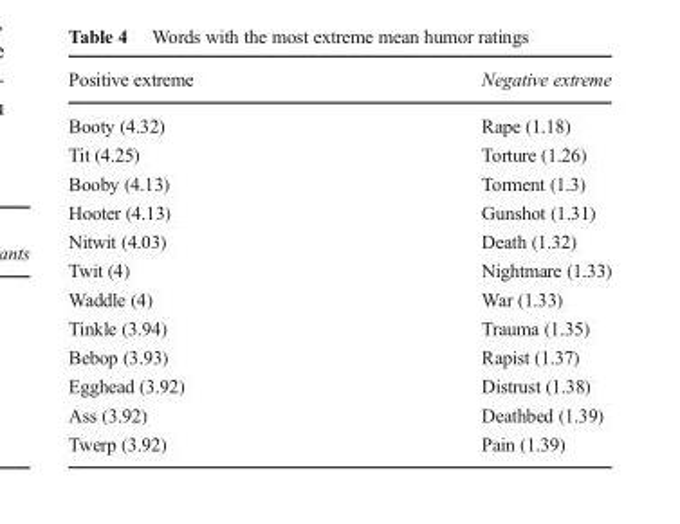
<table><thead><tr><td>Positive extreme</td><td>Negative extreme</td></tr></thead><tbody><tr><td>Booty (4.32)</td><td>Rape (1.18)</td></tr><tr><td>Tit (4.25)</td><td>Torture (1.26)</td></tr><tr><td>Booby (4.13)</td><td>Torment (1.3)</td></tr><tr><td>Hooter (4.13)</td><td>Gunshot (1.31)</td></tr><tr><td>Nitwit (4.03)</td><td>Death (1.32)</td></tr><tr><td>Twit (4)</td><td>Nightmare (1.33)</td></tr><tr><td>Waddle (4)</td><td>War (1.33)</td></tr><tr><td>Tinkle (3.94)</td><td>Trauma (1.35)</td></tr><tr><td>Bebop (3.93)</td><td>Rapist (1.37)</td></tr><tr><td>Egghead (3.92)</td><td>Distrust (1.38)</td></tr><tr><td>Ass (3.92)</td><td>Deathbed (1.39)</td></tr><tr><td>Twerp (3.92)</td><td>Pain (1.39)</td></tr></tbody></table>